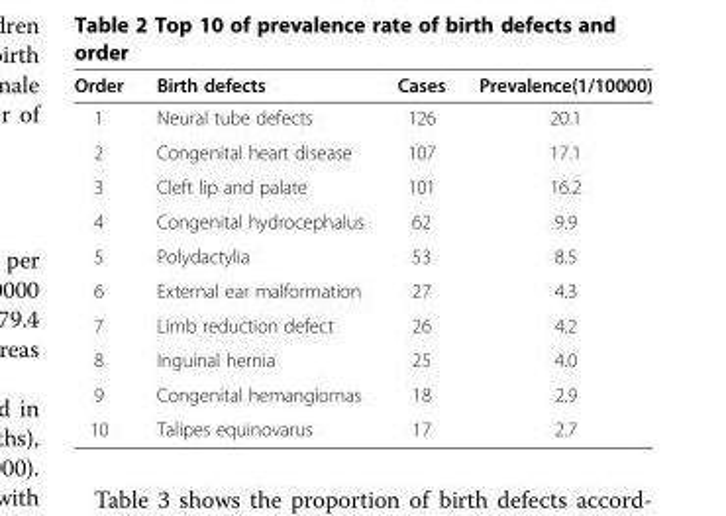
<table><thead><tr><td>Order</td><td>Birth defects</td><td>Cases</td><td>Prevalence(1/10000)</td></tr></thead><tbody><tr><td>1</td><td>Neural tube defects</td><td>126</td><td>20.1</td></tr><tr><td>2</td><td>Congenital heart disease</td><td>107</td><td>17.1</td></tr><tr><td>3</td><td>Cleft lip and palate</td><td>101</td><td>16.2</td></tr><tr><td>4</td><td>Congenital hydrocephalus</td><td>62</td><td>9.9</td></tr><tr><td>5</td><td>Polydactylia</td><td>53</td><td>8.5</td></tr><tr><td>6</td><td>External ear malformation</td><td>27</td><td>4.3</td></tr><tr><td>7</td><td>Limb reduction defect</td><td>26</td><td>4.2</td></tr><tr><td>8</td><td>Inguinal hernia</td><td>25</td><td>4.0</td></tr><tr><td>9</td><td>Congenital hemangiomas</td><td>18</td><td>2.9</td></tr><tr><td>10</td><td>Talipes equinovarus</td><td>17</td><td>2.7</td></tr></tbody></table>